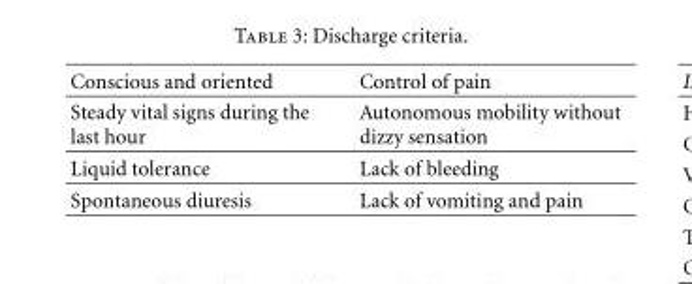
<table><thead><tr><td>Conscious and oriented</td><td>Control of pain</td></tr></thead><tbody><tr><td>Steady vital signs during the last hour</td><td>Autonomous mobility without dizzy sensation</td></tr><tr><td>Liquid tolerance</td><td>Lack of bleeding</td></tr><tr><td>Spontaneous diuresis</td><td>Lack of vomiting and pain</td></tr></tbody></table>